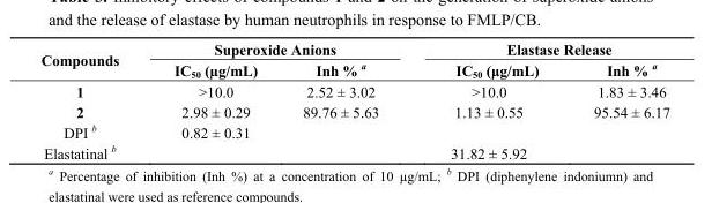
<table><thead><tr><td rowspan="2">Compounds</td><td colspan="2">Superoxide Anions</td><td colspan="2">Elastase Release</td></tr><tr><td>IC<sub>50</sub> (µg/mL)</td><td>Inh % <sup>a</sup></td><td>IC<sub>50</sub> (μg/mL)</td><td>Inh % <sup>a</sup></td></tr></thead><tbody><tr><td>1</td><td>&gt;10.0</td><td>2.52 ± 3.02</td><td>&gt;10.0</td><td>1.83 ± 3.46</td></tr><tr><td>2</td><td>2.98 ± 0.29</td><td>89.76 ± 5.63</td><td>1.13 ± 0.55</td><td>95.54 ± 6.17</td></tr><tr><td>DPI <sup>b</sup></td><td>0.82 ± 0.31</td><td></td><td></td><td></td></tr><tr><td>Elastatinal <sup>b</sup></td><td></td><td></td><td>31.82 ± 5.92</td><td></td></tr></tbody></table>